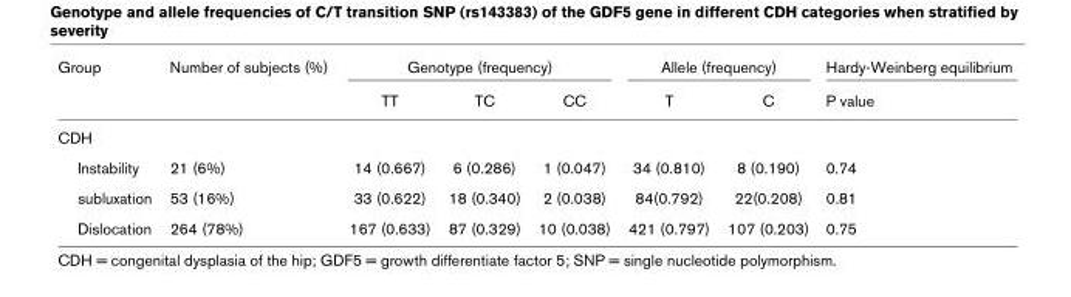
<table><thead><tr><td rowspan="2">Group</td><td rowspan="2">Number of subjects (%)</td><td colspan="3">Genotype (frequency)</td><td colspan="2">Allele (frequency)</td><td rowspan="2">Hardy-Weinberg equilibrium P value</td></tr><tr><td>TT</td><td>TC</td><td>CC</td><td>T</td><td>C</td></tr></thead><tbody><tr><td colspan="8">CDH</td></tr><tr><td>Instability</td><td>21 (6%)</td><td>14 (0.667)</td><td>6 (0.286)</td><td>1 (0.047)</td><td>34 (0.810)</td><td>8 (0.190)</td><td>0.74</td></tr><tr><td>subluxation</td><td>53 (16%)</td><td>33 (0.622)</td><td>18 (0.340)</td><td>2 (0.038)</td><td>84(0.792)</td><td>22(0.208)</td><td>0.81</td></tr><tr><td>Dislocation</td><td>264 (78%)</td><td>167 (0.633)</td><td>87 (0.329)</td><td>10 (0.038)</td><td>421 (0.797)</td><td>107 (0.203)</td><td>0.75</td></tr></tbody></table>